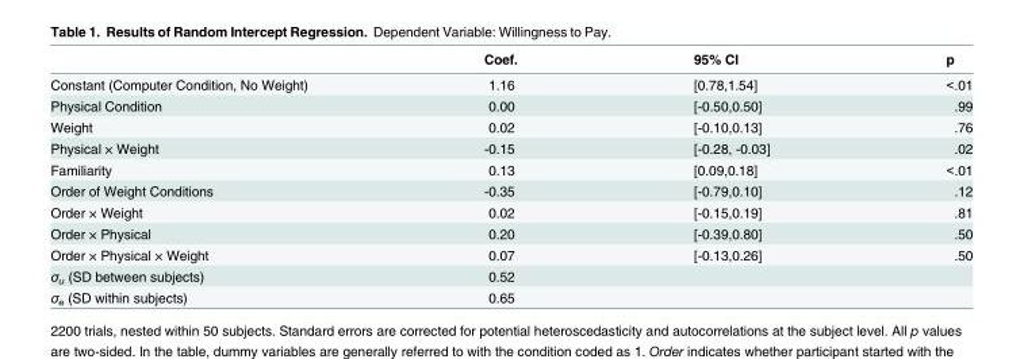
<table><thead><tr><td></td><td>Coef.</td><td>95% CI</td><td>p</td></tr></thead><tbody><tr><td>Constant (Computer Condition, No Weight)</td><td>1.16</td><td>[0.78,1.54]</td><td>&lt;.01</td></tr><tr><td>Physical Condition</td><td>0.00</td><td>[-0.50,0.50]</td><td>.99</td></tr><tr><td>Weight</td><td>0.02</td><td>[-0.10,0.13]</td><td>.76</td></tr><tr><td>Physical × Weight</td><td>-0.15</td><td>[-0.28, -0.03]</td><td>.02</td></tr><tr><td>Familiarity</td><td>0.13</td><td>[0.09,0.18]</td><td>&lt;.01</td></tr><tr><td>Order of Weight Conditions</td><td>-0.35</td><td>[-0.79,0.10]</td><td>.12</td></tr><tr><td>Order × Weight</td><td>0.02</td><td>[-0.15,0.19]</td><td>.81</td></tr><tr><td>Order × Physical</td><td>0.20</td><td>[-0.39,0.80]</td><td>.50</td></tr><tr><td>Order × Physical × Weight</td><td>0.07</td><td>[-0.13,0.26]</td><td>.50</td></tr><tr><td>σ<sub>u</sub> (SD between subjects)</td><td>0.52</td><td></td><td></td></tr><tr><td>σ<sub>e</sub> (SD within subjects)</td><td>0.65</td><td></td><td></td></tr></tbody></table>